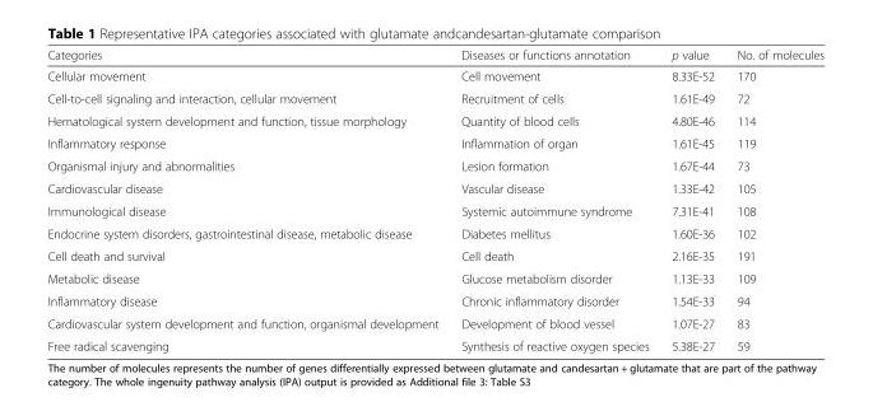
<table><thead><tr><td>Categories</td><td>Diseases or functions annotation</td><td>p value</td><td>No. of molecules</td></tr></thead><tbody><tr><td>Cellular movement</td><td>Cell movement</td><td>8.33E-52</td><td>170</td></tr><tr><td>Cell-to-cell signaling and interaction, cellular movement</td><td>Recruitment of cells</td><td>1.61E-49</td><td>72</td></tr><tr><td>Hematological system development and function, tissue morphology</td><td>Quantity of blood cells</td><td>4.80E-46</td><td>114</td></tr><tr><td>Inflammatory response</td><td>Inflammation of organ</td><td>1.61E-45</td><td>119</td></tr><tr><td>Organismal injury and abnormalities</td><td>Lesion formation</td><td>1.67E-44</td><td>73</td></tr><tr><td>Cardiovascular disease</td><td>Vascular disease</td><td>1.33E-42</td><td>105</td></tr><tr><td>Immunological disease</td><td>Systemic autoimmune syndrome</td><td>7.31E-41</td><td>108</td></tr><tr><td>Endocrine system disorders, gastrointestinal disease, metabolic disease</td><td>Diabetes mellitus</td><td>1.60E-36</td><td>102</td></tr><tr><td>Cell death and survival</td><td>Cell death</td><td>2.16E-35</td><td>191</td></tr><tr><td>Metabolic disease</td><td>Glucose metabolism disorder</td><td>1.13E-33</td><td>109</td></tr><tr><td>Inflammatory disease</td><td>Chronic inflammatory disorder</td><td>1.54E-33</td><td>94</td></tr><tr><td>Cardiovascular system development and function, organismal development</td><td>Development of blood vessel</td><td>1.07E-27</td><td>83</td></tr><tr><td>Free radical scavenging</td><td>Synthesis of reactive oxygen species</td><td>5.38E-27</td><td>59</td></tr></tbody></table>